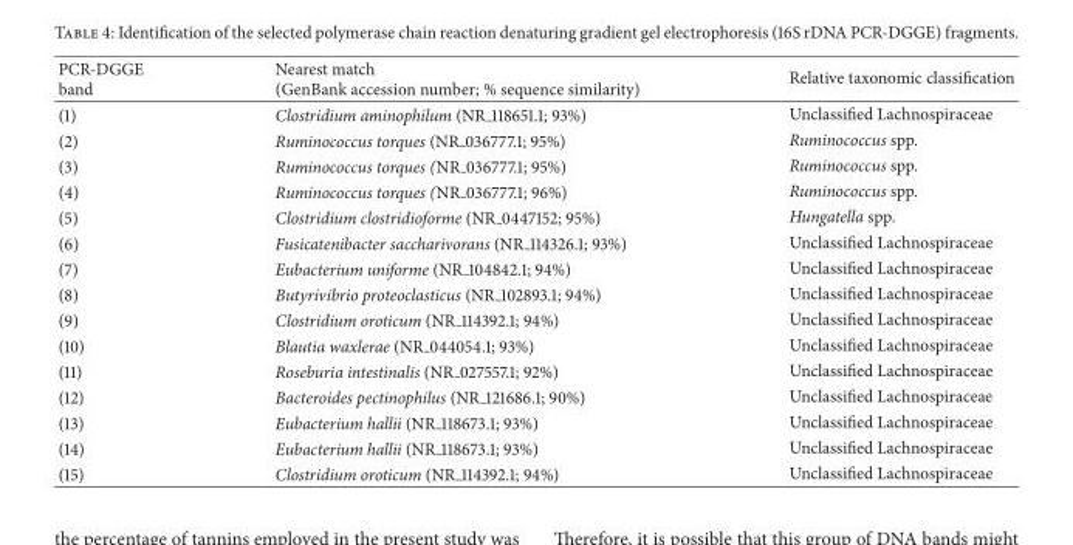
<table><thead><tr><td>PCR-DGGE band</td><td>Nearest match (GenBank accession number; % sequence similarity)</td><td>Relative taxonomic classification</td></tr></thead><tbody><tr><td>(1)</td><td>Clostridium aminophilum (NR 118651.1; 93%)</td><td>Unclassified Lachnospiraceae</td></tr><tr><td>(2)</td><td>Ruminococcus torques (NR 036777.1; 95%)</td><td>Ruminococcus spp.</td></tr><tr><td>(3)</td><td>Ruminococcus torques (NR 036777.1; 95%)</td><td>Ruminococcus spp.</td></tr><tr><td>(4)</td><td>Ruminococcus torques (NR 036777.1; 96%)</td><td>Ruminococcus spp.</td></tr><tr><td>(5)</td><td>Clostridium clostridioforme (NR 0447152; 95%)</td><td>Hungatella spp.</td></tr><tr><td>(6)</td><td>Fusicatenibacter saccharivorans (NR 114326.1; 93%)</td><td>Unclassified Lachnospiraceae</td></tr><tr><td>(7)</td><td>Eubacterium uniforme (NR 104842.1; 94%)</td><td>Unclassified Lachnospiraceae</td></tr><tr><td>(8)</td><td>Butyrivibrio proteoclasticus (NR 102893.1; 94%)</td><td>Unclassified Lachnospiraceae</td></tr><tr><td>(9)</td><td>Clostridium oroticum (NR 114392.1; 94%)</td><td>Unclassified Lachnospiraceae</td></tr><tr><td>(10)</td><td>Blautia waxlerae (NR 044054.1; 93%)</td><td>Unclassified Lachnospiraceae</td></tr><tr><td>(11)</td><td>Roseburia intestinalis (NR 027557.1; 92%)</td><td>Unclassified Lachnospiraceae</td></tr><tr><td>(12)</td><td>Bacteroides pectinophilus (NR 121686.1; 90%)</td><td>Unclassified Lachnospiraceae</td></tr><tr><td>(13)</td><td>Eubacterium hallii (NR 118673.1; 93%)</td><td>Unclassified Lachnospiraceae</td></tr><tr><td>(14)</td><td>Eubacterium hallii (NR 118673.1; 93%)</td><td>Unclassified Lachnospiraceae</td></tr><tr><td>(15)</td><td>Clostridium oroticum (NR 114392.1; 94%)</td><td>Unclassified Lachnospiraceae</td></tr></tbody></table>